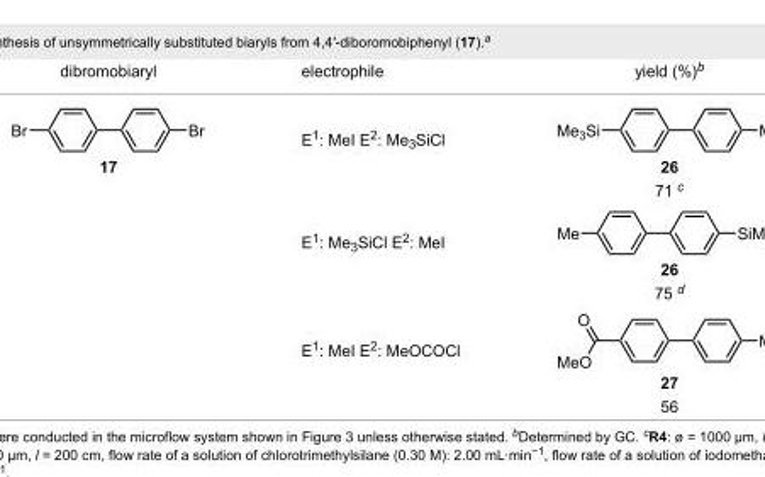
<table><tbody><tr><td>dibromobiaryl</td><td>electrophile</td><td>yield (%)<sup>b</sup></td></tr><tr><td rowspan="6">17</td><td>E<sup>1</sup>: MeI E<sup>2</sup>: Me<sub>3</sub>SiCl</td><td>26</td></tr><tr><td></td><td>71 <sup>c</sup></td></tr><tr><td>E<sup>1</sup>: Me<sub>3</sub>SiCl E<sup>2</sup>: MeI</td><td>26</td></tr><tr><td></td><td>75 <sup>d</sup></td></tr><tr><td>E<sup>1</sup>: MeI E<sup>2</sup>: MeOCOCl</td><td>27</td></tr><tr><td></td><td>56</td></tr></tbody></table>